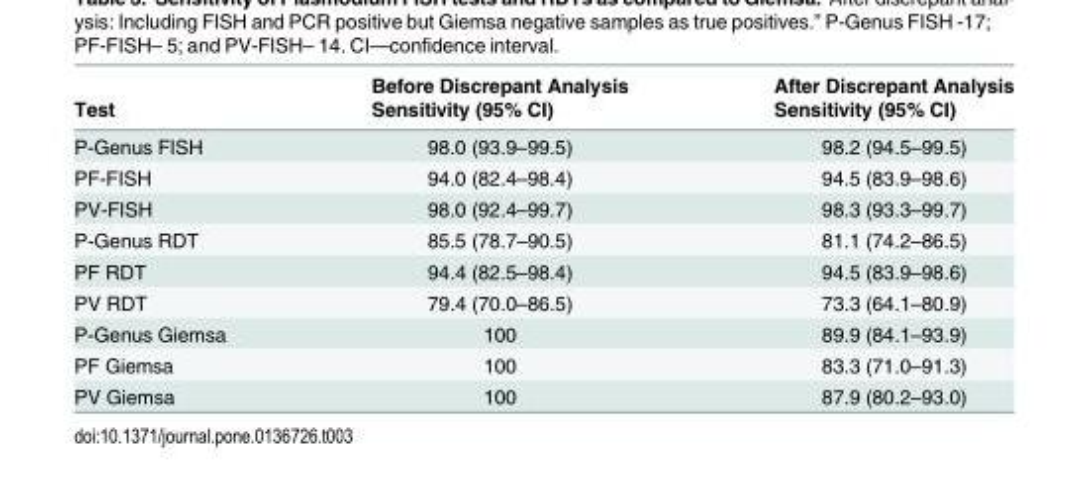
<table><thead><tr><td rowspan="2">Test</td><td rowspan="2">Before Discrepant Analysis Sensitivity (95% CI)</td><td rowspan="2">After Discrepant Analysis Sensitivity (95% CI)</td></tr><tr></tr></thead><tbody><tr><td>P-Genus FISH</td><td>98.0 (93.9–99.5)</td><td>98.2 (94.5–99.5)</td></tr><tr><td>PF-FISH</td><td>94.0 (82.4–98.4)</td><td>94.5 (83.9–98.6)</td></tr><tr><td>PV-FISH</td><td>98.0 (92.4–99.7)</td><td>98.3 (93.3–99.7)</td></tr><tr><td>P-Genus RDT</td><td>85.5 (78.7–90.5)</td><td>81.1 (74.2–86.5)</td></tr><tr><td>PF RDT</td><td>94.4 (82.5–98.4)</td><td>94.5 (83.9–98.6)</td></tr><tr><td>PV RDT</td><td>79.4 (70.0–86.5)</td><td>73.3 (64.1–80.9)</td></tr><tr><td>P-Genus Giemsa</td><td>100</td><td>89.9 (84.1–93.9)</td></tr><tr><td>PF Giemsa</td><td>100</td><td>83.3 (71.0–91.3)</td></tr><tr><td>PV Giemsa</td><td>100</td><td>87.9 (80.2–93.0)</td></tr></tbody></table>